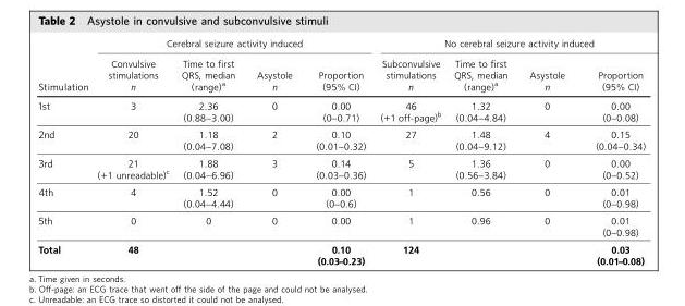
<table><thead><tr><td rowspan="2">Stimulation</td><td colspan="4">Cerebral seizure activity induced</td><td colspan="4">No cerebral seizure activity induced</td></tr><tr><td>Convulsive stimulations n</td><td>Time to first QRS, median (range)<sup>a</sup></td><td>Asystole n</td><td>Proportion (95% CI)</td><td>Subconvulsive stimulations n</td><td>Time to first QRS, median (range)<sup>a</sup></td><td>Asystole n</td><td>Proportion (95% CI)</td></tr></thead><tbody><tr><td>1st</td><td>3</td><td>2.36 (0.88-3.00)</td><td>0</td><td>0.00 (0-0.71)</td><td>46 (+1 off-page)<sup>b</sup></td><td>1.32 (0.04-4.84)</td><td>0</td><td>0.00 (0-0.08)</td></tr><tr><td>2nd</td><td>20</td><td>1.18 (0.04-7.08)</td><td>2</td><td>0.10 (0.01-0.32)</td><td>27</td><td>1.48 (0.04-9.12)</td><td>4</td><td>0.15 (0.04-0.34)</td></tr><tr><td>3rd</td><td>21 (+1 unreadable)<sup>c</sup></td><td>1.88 (0.04-6.96)</td><td>3</td><td>0.14 (0.03-0.36)</td><td>5</td><td>1.36 (0.56-3.84)</td><td>0</td><td>0.00 (0-0.52)</td></tr><tr><td>4th</td><td>4</td><td>1.52 (0.04-4.44)</td><td>0</td><td>0.00 (0-0.6)</td><td>1</td><td>0.56</td><td>0</td><td>0.01 (0-0.98)</td></tr><tr><td>5th</td><td>0</td><td>0</td><td>0</td><td>0.00</td><td>1</td><td>0.96</td><td>0</td><td>0.01 (0-0.98)</td></tr><tr><td>Total</td><td>48</td><td></td><td></td><td>0.10 (0.03-0.23)</td><td>124</td><td></td><td></td><td>0.03 (0.01-0.08)</td></tr></tbody></table>